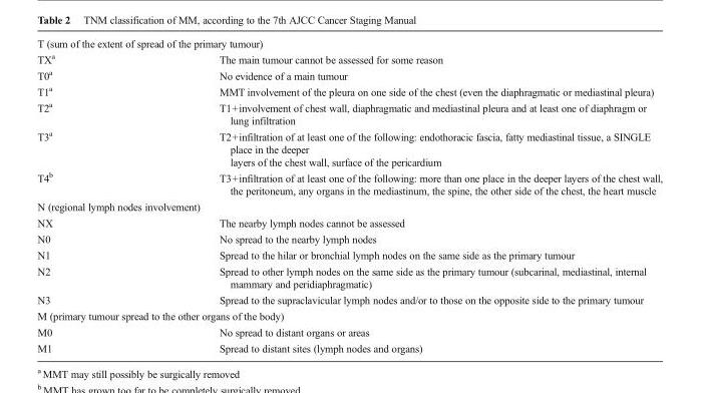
<table><tbody><tr><td colspan="2">T (sum of the extent of spread of the primary tumour)</td></tr><tr><td>TX<sup>a</sup></td><td>The main tumour cannot be assessed for some reason</td></tr><tr><td>T0<sup>a</sup></td><td>No evidence of a main tumour</td></tr><tr><td>T1<sup>a</sup></td><td>MMT involvement of the pleura on one side of the chest (even the diaphragmatic or mediastinal pleura)</td></tr><tr><td>T2<sup>a</sup></td><td>T1+involvement of chest wall, diaphragmatic and mediastinal pleura and at least one of diaphragm or lung infiltration</td></tr><tr><td>T3<sup>a</sup></td><td>T2+infiltration of at least one of the following: endothoracic fascia, fatty mediastinal tissue, a SINGLE place in the deeper layers of the chest wall, surface of the pericardium</td></tr><tr><td>T4<sup>b</sup></td><td>T3+infiltration of at least one of the following: more than one place in the deeper layers of the chest wall, the peritoneum, any organs in the mediastinum, the spine, the other side of the chest, the heart muscle</td></tr><tr><td colspan="2">N (regional lymph nodes involvement)</td></tr><tr><td>NX</td><td>The nearby lymph nodes cannot be assessed</td></tr><tr><td>N0</td><td>No spread to the nearby lymph nodes</td></tr><tr><td>N1</td><td>Spread to the hilar or bronchial lymph nodes on the same side as the primary tumour</td></tr><tr><td>N2</td><td>Spread to other lymph nodes on the same side as the primary tumour (subcarinal, mediastinal, internal mammary and peridiaphragmatic)</td></tr><tr><td>N3</td><td>Spread to the supraclavicular lymph nodes and/or to those on the opposite side to the primary tumour</td></tr><tr><td colspan="2">M (primary tumour spread to the other organs of the body)</td></tr><tr><td>M0</td><td>No spread to distant organs or areas</td></tr><tr><td>M1</td><td>Spread to distant sites (lymph nodes and organs)</td></tr></tbody></table>